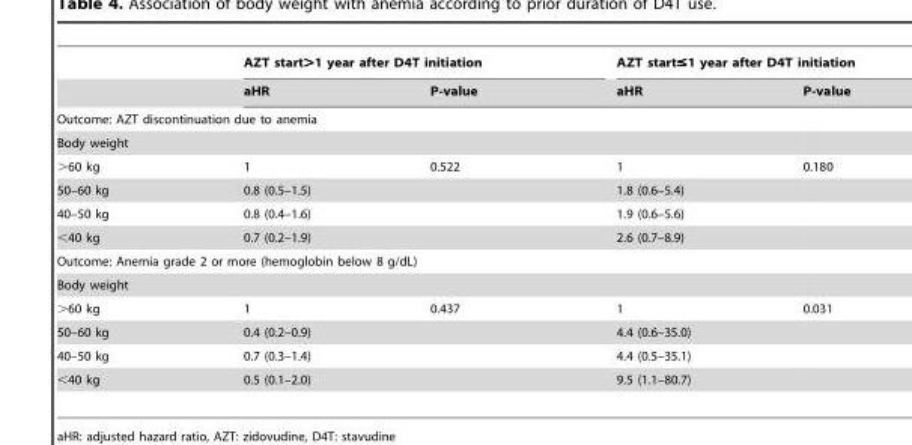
<table><thead><tr><td rowspan="2"></td><td colspan="2">AZT start&gt;1 year after D4T initiation</td><td colspan="2">AZT start≤1 year after D4T initiation</td></tr><tr><td>aHR</td><td>P-value</td><td>aHR</td><td>P-value</td></tr></thead><tbody><tr><td colspan="5">Outcome: AZT discontinuation due to anemia</td></tr><tr><td colspan="5">Body weight</td></tr><tr><td>&gt;60 kg</td><td>1</td><td>0.522</td><td>1</td><td>0.180</td></tr><tr><td>50–60 kg</td><td>0.8 (0.5–1.5)</td><td></td><td>1.8 (0.6–5.4)</td><td></td></tr><tr><td>40–50 kg</td><td>0.8 (0.4–1.6)</td><td></td><td>1.9 (0.6–5.6)</td><td></td></tr><tr><td>&lt;40 kg</td><td>0.7 (0.2–1.9)</td><td></td><td>2.6 (0.7–8.9)</td><td></td></tr><tr><td colspan="5">Outcome: Anemia grade 2 or more (hemoglobin below 8 g/dL)</td></tr><tr><td colspan="5">Body weight</td></tr><tr><td>&gt;60 kg</td><td>1</td><td>0.437</td><td>1</td><td>0.031</td></tr><tr><td>50–60 kg</td><td>0.4 (0.2–0.9)</td><td></td><td>4.4 (0.6–35.0)</td><td></td></tr><tr><td>40–50 kg</td><td>0.7 (0.3–1.4)</td><td></td><td>4.4 (0.5–35.1)</td><td></td></tr><tr><td>&lt;40 kg</td><td>0.5 (0.1–2.0)</td><td></td><td>9.5 (1.1–80.7)</td><td></td></tr></tbody></table>